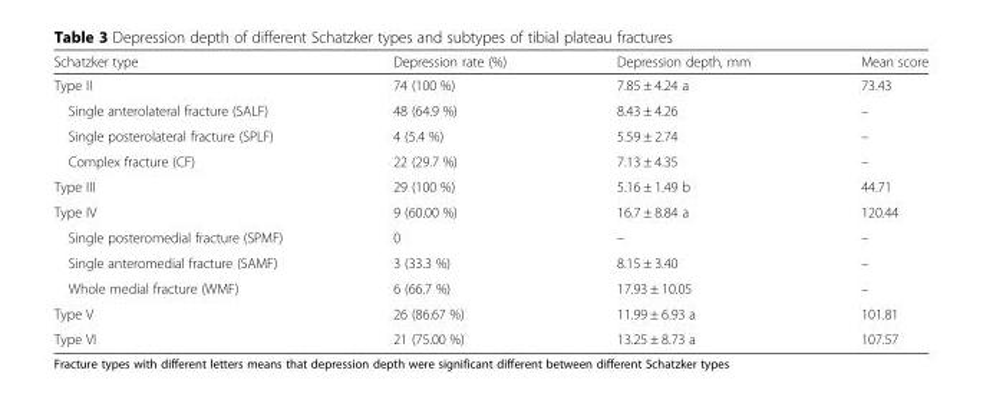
<table><thead><tr><td>Schatzker type</td><td>Depression rate (%)</td><td>Depression depth, mm</td><td>Mean score</td></tr></thead><tbody><tr><td>Type II</td><td>74 (100 %)</td><td>7.85 ± 4.24 a</td><td>73.43</td></tr><tr><td>Single anterolateral fracture (SALF)</td><td>48 (64.9 %)</td><td>8.43 ± 4.26</td><td>–</td></tr><tr><td>Single posterolateral fracture (SPLF)</td><td>4 (5.4 %)</td><td>5.59 ± 2.74</td><td>–</td></tr><tr><td>Complex fracture (CF)</td><td>22 (29.7 %)</td><td>7.13 ± 4.35</td><td>–</td></tr><tr><td>Type III</td><td>29 (100 %)</td><td>5.16 ± 1.49 b</td><td>44.71</td></tr><tr><td>Type IV</td><td>9 (60.00 %)</td><td>16.7 ± 8.84 a</td><td>120.44</td></tr><tr><td>Single posteromedial fracture (SPMF)</td><td>0</td><td>–</td><td>–</td></tr><tr><td>Single anteromedial fracture (SAMF)</td><td>3 (33.3 %)</td><td>8.15 ± 3.40</td><td>–</td></tr><tr><td>Whole medial fracture (WMF)</td><td>6 (66.7 %)</td><td>17.93 ± 10.05</td><td>–</td></tr><tr><td>Type V</td><td>26 (86.67 %)</td><td>11.99 ± 6.93 a</td><td>101.81</td></tr><tr><td>Type VI</td><td>21 (75.00 %)</td><td>13.25 ± 8.73 a</td><td>107.57</td></tr></tbody></table>